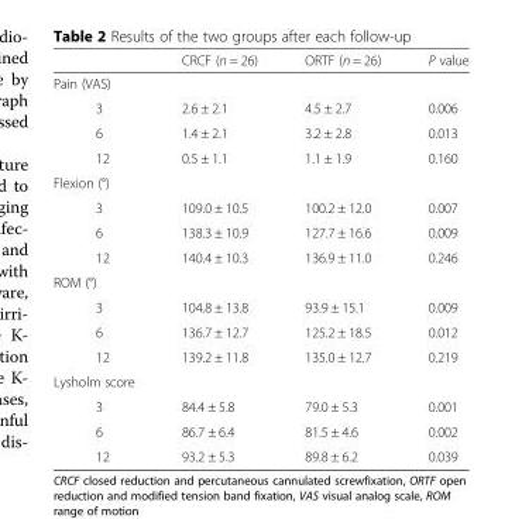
<table><thead><tr><td></td><td>CRCF (n = 26)</td><td>ORTF (n = 26)</td><td>P value</td></tr></thead><tbody><tr><td colspan="4">Pain (VAS)</td></tr><tr><td>3</td><td>2.6 ± 2.1</td><td>4.5 ± 2.7</td><td>0.006</td></tr><tr><td>6</td><td>1.4 ± 2.1</td><td>3.2 ± 2.8</td><td>0.013</td></tr><tr><td>12</td><td>0.5 ± 1.1</td><td>1.1 ± 1.9</td><td>0.160</td></tr><tr><td colspan="4">Flexion (°)</td></tr><tr><td>3</td><td>109.0 ± 10.5</td><td>100.2 ± 12.0</td><td>0.007</td></tr><tr><td>6</td><td>138.3 ± 10.9</td><td>127.7 ± 16.6</td><td>0.009</td></tr><tr><td>12</td><td>140.4 ± 10.3</td><td>136.9 ± 11.0</td><td>0.246</td></tr><tr><td colspan="4">ROM (°)</td></tr><tr><td>3</td><td>104.8 ± 13.8</td><td>93.9 ± 15.1</td><td>0.009</td></tr><tr><td>6</td><td>136.7 ± 12.7</td><td>125.2 ± 18.5</td><td>0.012</td></tr><tr><td>12</td><td>139.2 ± 11.8</td><td>135.0 ± 12.7</td><td>0.219</td></tr><tr><td colspan="4">Lysholm score</td></tr><tr><td>3</td><td>84.4 ± 5.8</td><td>79.0 ± 5.3</td><td>0.001</td></tr><tr><td>6</td><td>86.7 ± 6.4</td><td>81.5 ± 4.6</td><td>0.002</td></tr><tr><td>12</td><td>93.2 ± 5.3</td><td>89.8 ± 6.2</td><td>0.039</td></tr></tbody></table>